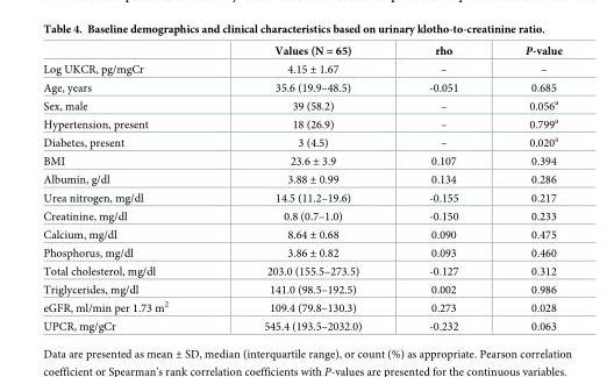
<table><thead><tr><td></td><td>Values (N = 65)</td><td>rho</td><td>P-value</td></tr></thead><tbody><tr><td>Log UKCR, pg/mgCr</td><td>4.15 ± 1.67</td><td>–</td><td>–</td></tr><tr><td>Age, years</td><td>35.6 (19.9–48.5)</td><td>-0.051</td><td>0.685</td></tr><tr><td>Sex, male</td><td>39 (58.2)</td><td>–</td><td>0.056<sup>a</sup></td></tr><tr><td>Hypertension, present</td><td>18 (26.9)</td><td>–</td><td>0.799<sup>a</sup></td></tr><tr><td>Diabetes, present</td><td>3 (4.5)</td><td>–</td><td>0.020<sup>a</sup></td></tr><tr><td>BMI</td><td>23.6 ± 3.9</td><td>0.107</td><td>0.394</td></tr><tr><td>Albumin, g/dl</td><td>3.88 ± 0.99</td><td>0.134</td><td>0.286</td></tr><tr><td>Urea nitrogen, mg/dl</td><td>14.5 (11.2–19.6)</td><td>-0.155</td><td>0.217</td></tr><tr><td>Creatinine, mg/dl</td><td>0.8 (0.7–1.0)</td><td>-0.150</td><td>0.233</td></tr><tr><td>Calcium, mg/dl</td><td>8.64 ± 0.68</td><td>0.090</td><td>0.475</td></tr><tr><td>Phosphorus, mg/dl</td><td>3.86 ± 0.82</td><td>0.093</td><td>0.460</td></tr><tr><td>Total cholesterol, mg/dl</td><td>203.0 (155.5–273.5)</td><td>-0.127</td><td>0.312</td></tr><tr><td>Triglycerides, mg/dl</td><td>141.0 (98.5–192.5)</td><td>0.002</td><td>0.986</td></tr><tr><td>eGFR, ml/min per 1.73 m<sup>2</sup></td><td>109.4 (79.8–130.3)</td><td>0.273</td><td>0.028</td></tr><tr><td>UPCR, mg/gCr</td><td>545.4 (193.5–2032.0)</td><td>-0.232</td><td>0.063</td></tr></tbody></table>